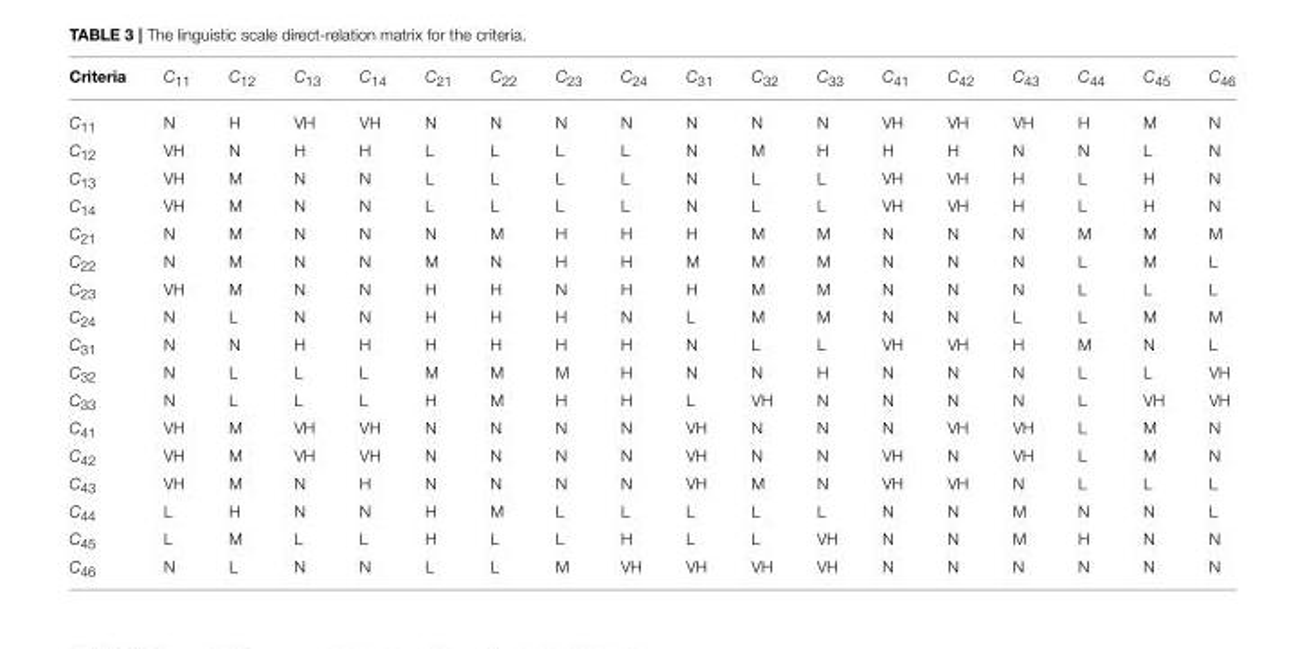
<table><thead><tr><td>Criteria</td><td>C<sub>11</sub></td><td>C<sub>12</sub></td><td>C<sub>13</sub></td><td>C<sub>14</sub></td><td>C<sub>21</sub></td><td>C<sub>22</sub></td><td>C<sub>23</sub></td><td>C<sub>24</sub></td><td>C<sub>31</sub></td><td>C<sub>32</sub></td><td>C<sub>33</sub></td><td>C<sub>41</sub></td><td>C<sub>42</sub></td><td>C<sub>43</sub></td><td>C<sub>44</sub></td><td>C<sub>45</sub></td><td>C<sub>46</sub></td></tr></thead><tbody><tr><td>C<sub>11</sub></td><td>N</td><td>H</td><td>VH</td><td>VH</td><td>N</td><td>N</td><td>N</td><td>N</td><td>N</td><td>N</td><td>N</td><td>VH</td><td>VH</td><td>VH</td><td>H</td><td>M</td><td>N</td></tr><tr><td>C<sub>12</sub></td><td>VH</td><td>N</td><td>H</td><td>H</td><td>L</td><td>L</td><td>L</td><td>L</td><td>N</td><td>M</td><td>H</td><td>H</td><td>H</td><td>N</td><td>N</td><td>L</td><td>N</td></tr><tr><td>C<sub>13</sub></td><td>VH</td><td>M</td><td>N</td><td>N</td><td>L</td><td>L</td><td>L</td><td>L</td><td>N</td><td>L</td><td>L</td><td>VH</td><td>VH</td><td>H</td><td>L</td><td>H</td><td>N</td></tr><tr><td>C<sub>14</sub></td><td>VH</td><td>M</td><td>N</td><td>N</td><td>L</td><td>L</td><td>L</td><td>L</td><td>N</td><td>L</td><td>L</td><td>VH</td><td>VH</td><td>H</td><td>L</td><td>H</td><td>N</td></tr><tr><td>C<sub>21</sub></td><td>N</td><td>M</td><td>N</td><td>N</td><td>N</td><td>M</td><td>H</td><td>H</td><td>H</td><td>M</td><td>M</td><td>N</td><td>N</td><td>N</td><td>M</td><td>M</td><td>M</td></tr><tr><td>C<sub>22</sub></td><td>N</td><td>M</td><td>N</td><td>N</td><td>M</td><td>N</td><td>H</td><td>H</td><td>M</td><td>M</td><td>M</td><td>N</td><td>N</td><td>N</td><td>L</td><td>M</td><td>L</td></tr><tr><td>C<sub>23</sub></td><td>VH</td><td>M</td><td>N</td><td>N</td><td>H</td><td>H</td><td>N</td><td>H</td><td>H</td><td>M</td><td>M</td><td>N</td><td>N</td><td>N</td><td>L</td><td>L</td><td>L</td></tr><tr><td>C<sub>24</sub></td><td>N</td><td>L</td><td>N</td><td>N</td><td>H</td><td>H</td><td>H</td><td>N</td><td>L</td><td>M</td><td>M</td><td>N</td><td>N</td><td>L</td><td>L</td><td>M</td><td>M</td></tr><tr><td>C<sub>31</sub></td><td>N</td><td>N</td><td>H</td><td>H</td><td>H</td><td>H</td><td>H</td><td>H</td><td>N</td><td>L</td><td>L</td><td>VH</td><td>VH</td><td>H</td><td>M</td><td>N</td><td>L</td></tr><tr><td>C<sub>32</sub></td><td>N</td><td>L</td><td>L</td><td>L</td><td>M</td><td>M</td><td>M</td><td>H</td><td>N</td><td>N</td><td>H</td><td>N</td><td>N</td><td>N</td><td>L</td><td>L</td><td>VH</td></tr><tr><td>C<sub>33</sub></td><td>N</td><td>L</td><td>L</td><td>L</td><td>H</td><td>M</td><td>H</td><td>H</td><td>L</td><td>VH</td><td>N</td><td>N</td><td>N</td><td>N</td><td>L</td><td>VH</td><td>VH</td></tr><tr><td>C<sub>41</sub></td><td>VH</td><td>M</td><td>VH</td><td>VH</td><td>N</td><td>N</td><td>N</td><td>N</td><td>VH</td><td>N</td><td>N</td><td>N</td><td>VH</td><td>VH</td><td>L</td><td>M</td><td>N</td></tr><tr><td>C<sub>42</sub></td><td>VH</td><td>M</td><td>VH</td><td>VH</td><td>N</td><td>N</td><td>N</td><td>N</td><td>VH</td><td>N</td><td>N</td><td>VH</td><td>N</td><td>VH</td><td>L</td><td>M</td><td>N</td></tr><tr><td>C<sub>43</sub></td><td>VH</td><td>M</td><td>N</td><td>H</td><td>N</td><td>N</td><td>N</td><td>N</td><td>VH</td><td>M</td><td>N</td><td>VH</td><td>VH</td><td>N</td><td>L</td><td>L</td><td>L</td></tr><tr><td>C<sub>44</sub></td><td>L</td><td>H</td><td>N</td><td>N</td><td>H</td><td>M</td><td>L</td><td>L</td><td>L</td><td>L</td><td>L</td><td>N</td><td>N</td><td>M</td><td>N</td><td>N</td><td>L</td></tr><tr><td>C<sub>45</sub></td><td>L</td><td>M</td><td>L</td><td>L</td><td>H</td><td>L</td><td>L</td><td>H</td><td>L</td><td>L</td><td>VH</td><td>N</td><td>N</td><td>M</td><td>H</td><td>N</td><td>N</td></tr><tr><td>C<sub>46</sub></td><td>N</td><td>L</td><td>N</td><td>N</td><td>L</td><td>L</td><td>M</td><td>VH</td><td>VH</td><td>VH</td><td>VH</td><td>N</td><td>N</td><td>N</td><td>N</td><td>N</td><td>N</td></tr></tbody></table>